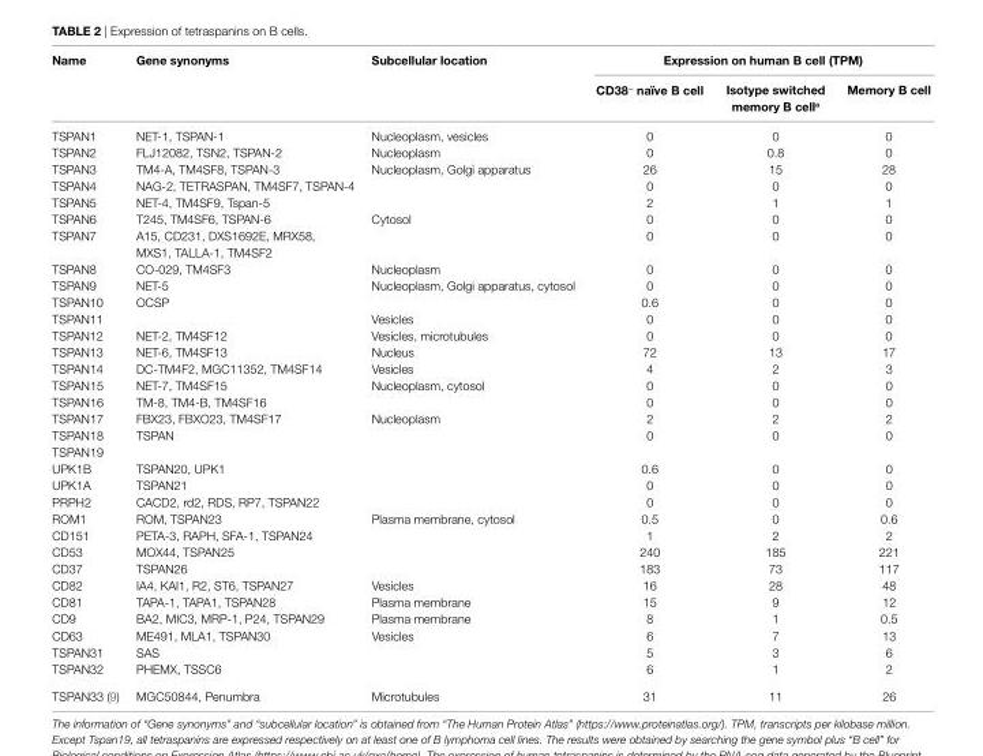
<table><thead><tr><td rowspan="2">Name</td><td rowspan="2">Gene synonyms</td><td rowspan="2">Subcellular location</td><td colspan="3">expression on human B cell (TPM)</td></tr><tr><td>CD38<sup>−</sup> naïve B cell</td><td>isotype switched memory B cell<sup>a</sup></td><td>Memory B cell</td></tr></thead><tbody><tr><td>TSPAN1</td><td>NET-1, TSPAN-1</td><td>Nucleoplasm, vesicles</td><td>0</td><td>0</td><td>0</td></tr><tr><td>TSPAN2</td><td>FLJ12082, TSN2, TSPAN-2</td><td>Nucleoplasm</td><td>0</td><td>0.8</td><td>0</td></tr><tr><td>TSPAN3</td><td>TM4-A, TM4SF8, TSPAN-3</td><td>Nucleoplasm, Golgi apparatus</td><td>26</td><td>15</td><td>28</td></tr><tr><td>TSPAN4</td><td>NAG-2, TETRASPAN, TM4SF7, TSPAN-4</td><td></td><td>0</td><td>0</td><td>0</td></tr><tr><td>TSPAN5</td><td>NET-4, TM4SF9, Tspan-5</td><td></td><td>2</td><td>1</td><td>1</td></tr><tr><td>TSPAN6</td><td>T245, TM4SF6, TSPAN-6</td><td>Cytosol</td><td>0</td><td>0</td><td>0</td></tr><tr><td>TSPAN7</td><td>A15, CD231, DXS1692E, MRX58, MXS1, TALLA-1, TM4SF2</td><td></td><td>0</td><td>0</td><td>0</td></tr><tr><td>TSPAN8</td><td>CO-029, TM4SF3</td><td>Nucleoplasm</td><td>0</td><td>0</td><td>0</td></tr><tr><td>TSPAN9</td><td>NET-5</td><td>Nucleoplasm, Golgi apparatus, cytosol</td><td>0</td><td>0</td><td>0</td></tr><tr><td>TSPAN10</td><td>OCSP</td><td></td><td>0.6</td><td>0</td><td>0</td></tr><tr><td>TSPAN11</td><td></td><td>Vesicles</td><td>0</td><td>0</td><td>0</td></tr><tr><td>TSPAN12</td><td>NET-2, TM4SF12</td><td>Vesicles, microtubules</td><td>0</td><td>0</td><td>0</td></tr><tr><td>TSPAN13</td><td>NET-6, TM4SF13</td><td>Nucleus</td><td>72</td><td>13</td><td>17</td></tr><tr><td>TSPAN14</td><td>DC-TM4F2, MGC11352, TM4SF14</td><td>Vesicles</td><td>4</td><td>2</td><td>3</td></tr><tr><td>TSPAN15</td><td>NET-7, TM4SF15</td><td>Nucleoplasm, cytosol</td><td>0</td><td>0</td><td>0</td></tr><tr><td>TSPAN16</td><td>TM-8, TM4-B, TM4SF16</td><td></td><td>0</td><td>0</td><td>0</td></tr><tr><td>TSPAN17</td><td>FBX23, FBXO23, TM4SF17</td><td>Nucleoplasm</td><td>2</td><td>2</td><td>2</td></tr><tr><td>TSPAN18</td><td>TSPAN</td><td></td><td>0</td><td>0</td><td>0</td></tr><tr><td colspan="6">TSPAN19</td></tr><tr><td>UPK1B</td><td>TSPAN20, UPK1</td><td></td><td>0.6</td><td>0</td><td>0</td></tr><tr><td>UPK1A</td><td>TSPAN21</td><td></td><td>0</td><td>0</td><td>0</td></tr><tr><td>PRPH2</td><td>CACD2, rd2, RDS, RP7, TSPAN22</td><td></td><td>0</td><td>0</td><td>0</td></tr><tr><td>ROM1</td><td>ROM, TSPAN23</td><td>Plasma membrane, cytosol</td><td>0.5</td><td>0</td><td>0.6</td></tr><tr><td>CD151</td><td>PETA-3, RAPH, SFA-1, TSPAN24</td><td></td><td>1</td><td>2</td><td>2</td></tr><tr><td>CD53</td><td>MOX44, TSPAN25</td><td></td><td>240</td><td>185</td><td>221</td></tr><tr><td>CD37</td><td>TSPAN26</td><td></td><td>183</td><td>73</td><td>117</td></tr><tr><td>CD82</td><td>IA4, KAI1, R2, ST6, TSPAN27</td><td>Vesicles</td><td>16</td><td>28</td><td>48</td></tr><tr><td>CD81</td><td>TAPA-1, TAPA1, TSPAN28</td><td>Plasma membrane</td><td>15</td><td>9</td><td>12</td></tr><tr><td>CD9</td><td>BA2, MIC3, MRP-1, P24, TSPAN29</td><td>Plasma membrane</td><td>8</td><td>1</td><td>0.5</td></tr><tr><td>CD63</td><td>ME491, MLA1, TSPAN30</td><td>Vesicles</td><td>6</td><td>7</td><td>13</td></tr><tr><td>TSPAN31</td><td>SAS</td><td></td><td>5</td><td>3</td><td>6</td></tr><tr><td>TSPAN32</td><td>PHEMX, TSSC6</td><td></td><td>6</td><td>1</td><td>2</td></tr><tr><td>TSPAN33 (9)</td><td>MGC50844, Penumbra</td><td>Microtubules</td><td>31</td><td>11</td><td>26</td></tr></tbody></table>